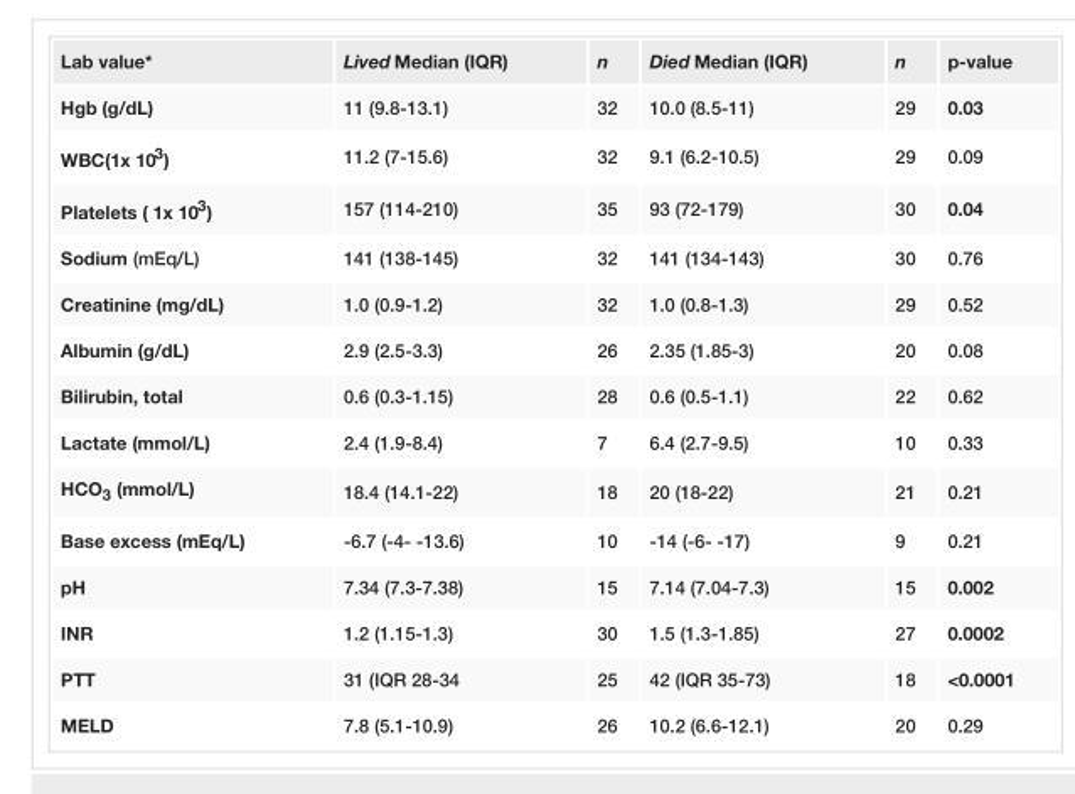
<table><tbody><tr><td>Lab value*</td><td>Lived Median (IQR)</td><td>n</td><td>Died Median (IQR)</td><td>n</td><td>p-value</td></tr><tr><td>Hgb (g/dL)</td><td>11 (9.8-13.1)</td><td>32</td><td>10.0 (8.5-11)</td><td>29</td><td>0.03</td></tr><tr><td>WBC(1x 10<sup>3</sup>)</td><td>11.2 (7-15.6)</td><td>32</td><td>9.1 (6.2-10.5)</td><td>29</td><td>0.09</td></tr><tr><td>Platelets ( 1x 10<sup>3</sup>)</td><td>157 (114-210)</td><td>35</td><td>93 (72-179)</td><td>30</td><td>0.04</td></tr><tr><td>Sodium (mEq/L)</td><td>141 (138-145)</td><td>32</td><td>141 (134-143)</td><td>30</td><td>0.76</td></tr><tr><td>Creatinine (mg/dL)</td><td>1.0 (0.9-1.2)</td><td>32</td><td>1.0 (0.8-1.3)</td><td>29</td><td>0.52</td></tr><tr><td>Albumin (g/dL)</td><td>2.9 (2.5-3.3)</td><td>26</td><td>2.35 (1.85-3)</td><td>20</td><td>0.08</td></tr><tr><td>Bilirubin, total</td><td>0.6 (0.3-1.15)</td><td>28</td><td>0.6 (0.5-1.1)</td><td>22</td><td>0.62</td></tr><tr><td>Lactate (mmol/L)</td><td>2.4 (1.9-8.4)</td><td>7</td><td>6.4 (2.7-9.5)</td><td>10</td><td>0.33</td></tr><tr><td>HCO<sub>3</sub> (mmol/L)</td><td>18.4 (14.1-22)</td><td>18</td><td>20 (18-22)</td><td>21</td><td>0.21</td></tr><tr><td>Base excess (mEq/L)</td><td>-6.7 (-4- -13.6)</td><td>10</td><td>-14 (-6- -17)</td><td>9</td><td>0.21</td></tr><tr><td>pH</td><td>7.34 (7.3-7.38)</td><td>15</td><td>7.14 (7.04-7.3)</td><td>15</td><td>0.002</td></tr><tr><td>INR</td><td>1.2 (1.15-1.3)</td><td>30</td><td>1.5 (1.3-1.85)</td><td>27</td><td>0.0002</td></tr><tr><td>PTT</td><td>31 (IQR 28-34</td><td>25</td><td>42 (IQR 35-73)</td><td>18</td><td>&lt;0.0001</td></tr><tr><td>MELD</td><td>7.8 (5.1-10.9)</td><td>26</td><td>10.2 (6.6-12.1)</td><td>20</td><td>0.29</td></tr></tbody></table>